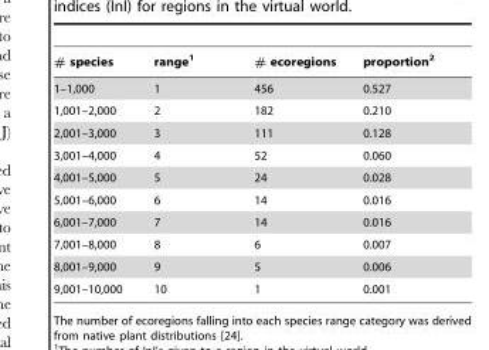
<table><thead><tr><td># species</td><td>range<sup>1</sup></td><td># ecoregions</td><td>proportion<sup>2</sup></td></tr></thead><tbody><tr><td>1–1,000</td><td>1</td><td>456</td><td>0.527</td></tr><tr><td>1,001–2,000</td><td>2</td><td>182</td><td>0.210</td></tr><tr><td>2,001–3,000</td><td>3</td><td>111</td><td>0.128</td></tr><tr><td>3,001–4,000</td><td>4</td><td>52</td><td>0.060</td></tr><tr><td>4,001–5,000</td><td>5</td><td>24</td><td>0.028</td></tr><tr><td>5,001–6,000</td><td>6</td><td>14</td><td>0.016</td></tr><tr><td>6,001–7,000</td><td>7</td><td>14</td><td>0.016</td></tr><tr><td>7,001–8,000</td><td>8</td><td>6</td><td>0.007</td></tr><tr><td>8,001–9,000</td><td>9</td><td>5</td><td>0.006</td></tr><tr><td>9,001–10,000</td><td>10</td><td>1</td><td>0.001</td></tr></tbody></table>